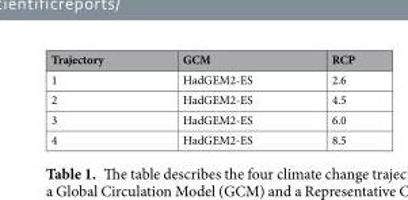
<table><thead><tr><td>Trajectory</td><td>GCM</td><td>RCP</td></tr></thead><tbody><tr><td>1</td><td>HadGEM2-ES</td><td>2.6</td></tr><tr><td>2</td><td>HadGEM2-ES</td><td>4.5</td></tr><tr><td>3</td><td>HadGEM2-ES</td><td>6.0</td></tr><tr><td>4</td><td>HadGEM2-ES</td><td>8.5</td></tr></tbody></table>